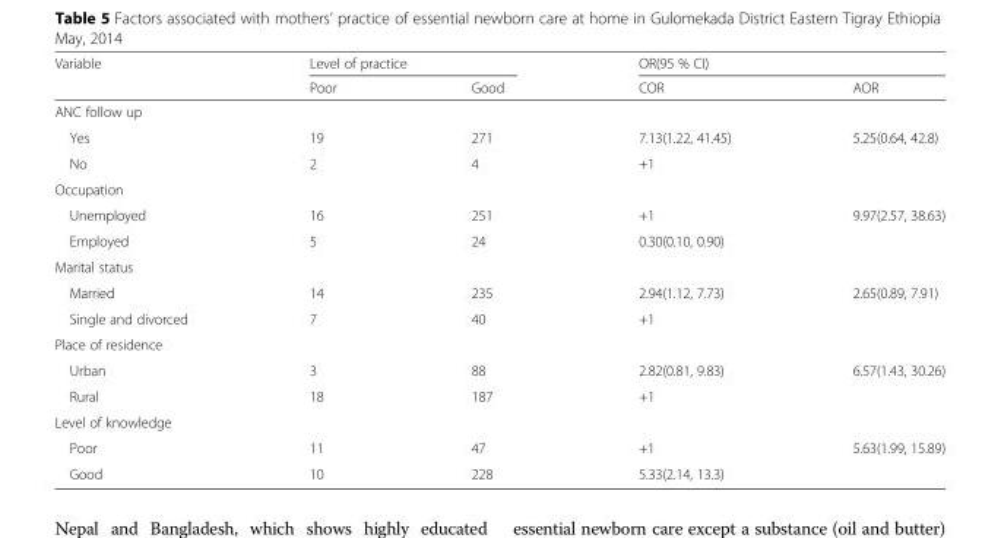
<table><thead><tr><td rowspan="2">Variable</td><td colspan="2">Level of practice</td><td colspan="2">OR(95 % CI)</td></tr><tr><td>Poor</td><td>Good</td><td>COR</td><td>AOR</td></tr></thead><tbody><tr><td colspan="5">ANC follow up</td></tr><tr><td>Yes</td><td>19</td><td>271</td><td>7.13(1.22, 41.45)</td><td rowspan="2">5.25(0.64, 42.8)</td></tr><tr><td>No</td><td>2</td><td>4</td><td>+1</td></tr><tr><td colspan="5">Occupation</td></tr><tr><td>Unemployed</td><td>16</td><td>251</td><td>+1</td><td rowspan="2">9.97(2.57, 38.63)</td></tr><tr><td>Employed</td><td>5</td><td>24</td><td>0.30(0.10, 0.90)</td></tr><tr><td colspan="5">Marital status</td></tr><tr><td>Married</td><td>14</td><td>235</td><td>2.94(1.12, 7.73)</td><td rowspan="2">2.65(0.89, 7.91)</td></tr><tr><td>Single and divorced</td><td>7</td><td>40</td><td>+1</td></tr><tr><td colspan="5">Place of residence</td></tr><tr><td>Urban</td><td>3</td><td>88</td><td>2.82(0.81, 9.83)</td><td>6.57(1.43, 30.26)</td></tr><tr><td>Rural</td><td>18</td><td>187</td><td>+1</td><td></td></tr><tr><td colspan="5">Level of knowledge</td></tr><tr><td>Poor</td><td>11</td><td>47</td><td>+1</td><td rowspan="2">5.63(1.99, 15.89)</td></tr><tr><td>Good</td><td>10</td><td>228</td><td>5.33(2.14, 13.3)</td></tr></tbody></table>